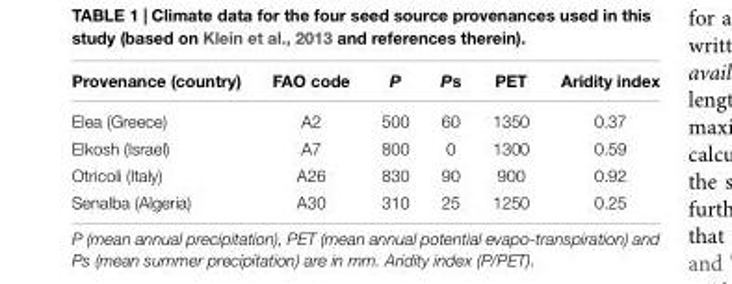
<table><thead><tr><td>Provenance (country)</td><td>FAO code</td><td>P</td><td>Ps</td><td>PET</td><td>Aridity index</td></tr></thead><tbody><tr><td>Elea (Greece)</td><td>A2</td><td>500</td><td>60</td><td>1350</td><td>0.37</td></tr><tr><td>Elkosh (Israel)</td><td>A7</td><td>800</td><td>0</td><td>1300</td><td>0.59</td></tr><tr><td>Otricoli (Italy)</td><td>A26</td><td>830</td><td>90</td><td>900</td><td>0.92</td></tr><tr><td>Senalba (Algeria)</td><td>A30</td><td>310</td><td>25</td><td>1250</td><td>0.25</td></tr></tbody></table>